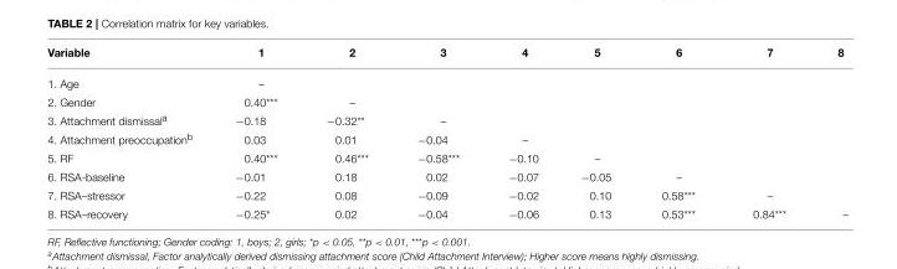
<table><thead><tr><td>Variable</td><td>1</td><td>2</td><td>3</td><td>4</td><td>5</td><td>6</td><td>7</td><td>8</td></tr></thead><tbody><tr><td>1. Age</td><td>–</td><td></td><td></td><td></td><td></td><td></td><td></td><td></td></tr><tr><td>2. Gender</td><td>0.40***</td><td>–</td><td></td><td></td><td></td><td></td><td></td><td></td></tr><tr><td>3. Attachment dismissal<sup>a</sup></td><td>−0.18</td><td>−0.32**</td><td>–</td><td></td><td></td><td></td><td></td><td></td></tr><tr><td>4. Attachment preoccupation<sup>b</sup></td><td>0.03</td><td>0.01</td><td>−0.04</td><td>–</td><td></td><td></td><td></td><td></td></tr><tr><td>5. RF</td><td>0.40***</td><td>0.46***</td><td>−0.58***</td><td>−0.10</td><td>–</td><td></td><td></td><td></td></tr><tr><td>6. RSA-baseline</td><td>−0.01</td><td>0.18</td><td>0.02</td><td>−0.07</td><td>−0.05</td><td>–</td><td></td><td></td></tr><tr><td>7. RSA–stressor</td><td>−0.22</td><td>0.08</td><td>−0.09</td><td>−0.02</td><td>0.10</td><td>0.58***</td><td>–</td><td></td></tr><tr><td>8. RSA–recovery</td><td>−0.25*</td><td>0.02</td><td>−0.04</td><td>−0.06</td><td>0.13</td><td>0.53***</td><td>0.84***</td><td>–</td></tr></tbody></table>